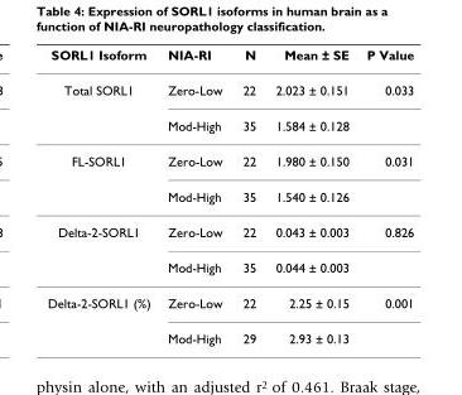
<table><thead><tr><td>SORL1 Isoform</td><td>NIA-RI</td><td>N</td><td>Mean ± SE</td><td>P Value</td></tr></thead><tbody><tr><td rowspan="2">Total SORL1</td><td>Zero-Low</td><td>22</td><td>2.023 ± 0.151</td><td>0.033</td></tr><tr><td>Mod-High</td><td>35</td><td>1.584 ± 0.128</td><td></td></tr><tr><td rowspan="2">FL-SORL1</td><td>Zero-Low</td><td>22</td><td>1.980 ± 0.150</td><td>0.031</td></tr><tr><td>Mod-High</td><td>35</td><td>1.540 ± 0.126</td><td></td></tr><tr><td rowspan="2">Delta-2-SORL1</td><td>Zero-Low</td><td>22</td><td>0.043 ± 0.003</td><td>0.826</td></tr><tr><td>Mod-High</td><td>35</td><td>0.044 ± 0.003</td><td></td></tr><tr><td rowspan="2">Delta-2-SORL1 (%)</td><td>Zero-Low</td><td>22</td><td>2.25 ± 0.15</td><td>0.001</td></tr><tr><td>Mod-High</td><td>29</td><td>2.93 ± 0.13</td><td></td></tr></tbody></table>